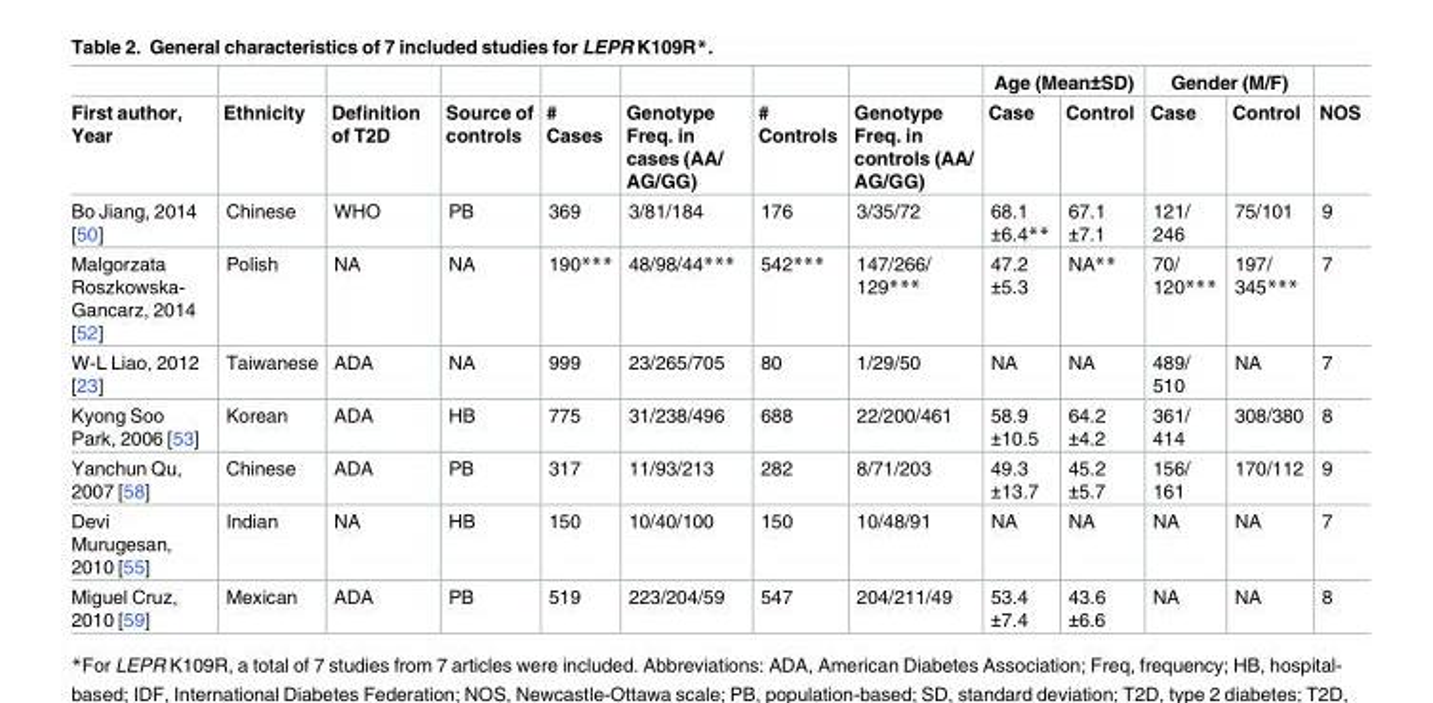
<table><thead><tr><td rowspan="2">First author, Year</td><td rowspan="2">Ethnicity</td><td rowspan="2">Definition of T2D</td><td rowspan="2">Source of controls</td><td rowspan="2"># Cases</td><td rowspan="2">Genotype Freq. in cases (AA/ AG/GG)</td><td rowspan="2"># Controls</td><td rowspan="2">Genotype Freq. in controls (AA/ AG/GG)</td><td colspan="2">Age (Mean±SD)</td><td colspan="2">Gender (M/F)</td><td rowspan="2">NOS</td></tr><tr><td>Case</td><td>Control</td><td>Case</td><td>Control</td></tr></thead><tbody><tr><td>Bo Jiang, 2014 [50]</td><td>Chinese</td><td>WHO</td><td>PB</td><td>369</td><td>3/81/184</td><td>176</td><td>3/35/72</td><td>68.1 ±6.4**</td><td>67.1 ±7.1</td><td>121/ 246</td><td>75/101</td><td>9</td></tr><tr><td>Malgorzata Roszkowska- Gancarz, 2014 [52]</td><td>Polish</td><td>NA</td><td>NA</td><td>190***</td><td>48/98/44***</td><td>542***</td><td>147/266/ 129***</td><td>47.2 ±5.3</td><td>NA**</td><td>70/ 120***</td><td>197/ 345***</td><td>7</td></tr><tr><td>W-L Liao, 2012 [23]</td><td>Taiwanese</td><td>ADA</td><td>NA</td><td>999</td><td>23/265/705</td><td>80</td><td>1/29/50</td><td>NA</td><td>NA</td><td>489/ 510</td><td>NA</td><td>7</td></tr><tr><td>Kyong Soo Park, 2006 [53]</td><td>Korean</td><td>ADA</td><td>HB</td><td>775</td><td>31/238/496</td><td>688</td><td>22/200/461</td><td>58.9 ±10.5</td><td>64.2 ±4.2</td><td>361/ 414</td><td>308/380</td><td>8</td></tr><tr><td>Yanchun Qu, 2007 [58]</td><td>Chinese</td><td>ADA</td><td>PB</td><td>317</td><td>11/93/213</td><td>282</td><td>8/71/203</td><td>49.3 ±13.7</td><td>45.2 ±5.7</td><td>156/ 161</td><td>170/112</td><td>9</td></tr><tr><td>Devi Murugesan, 2010 [55]</td><td>Indian</td><td>NA</td><td>HB</td><td>150</td><td>10/40/100</td><td>150</td><td>10/48/91</td><td>NA</td><td>NA</td><td>NA</td><td>NA</td><td>7</td></tr><tr><td>Miguel Cruz, 2010 [59]</td><td>Mexican</td><td>ADA</td><td>PB</td><td>519</td><td>223/204/59</td><td>547</td><td>204/211/49</td><td>53.4 ±7.4</td><td>43.6 ±6.6</td><td>NA</td><td>NA</td><td>8</td></tr></tbody></table>